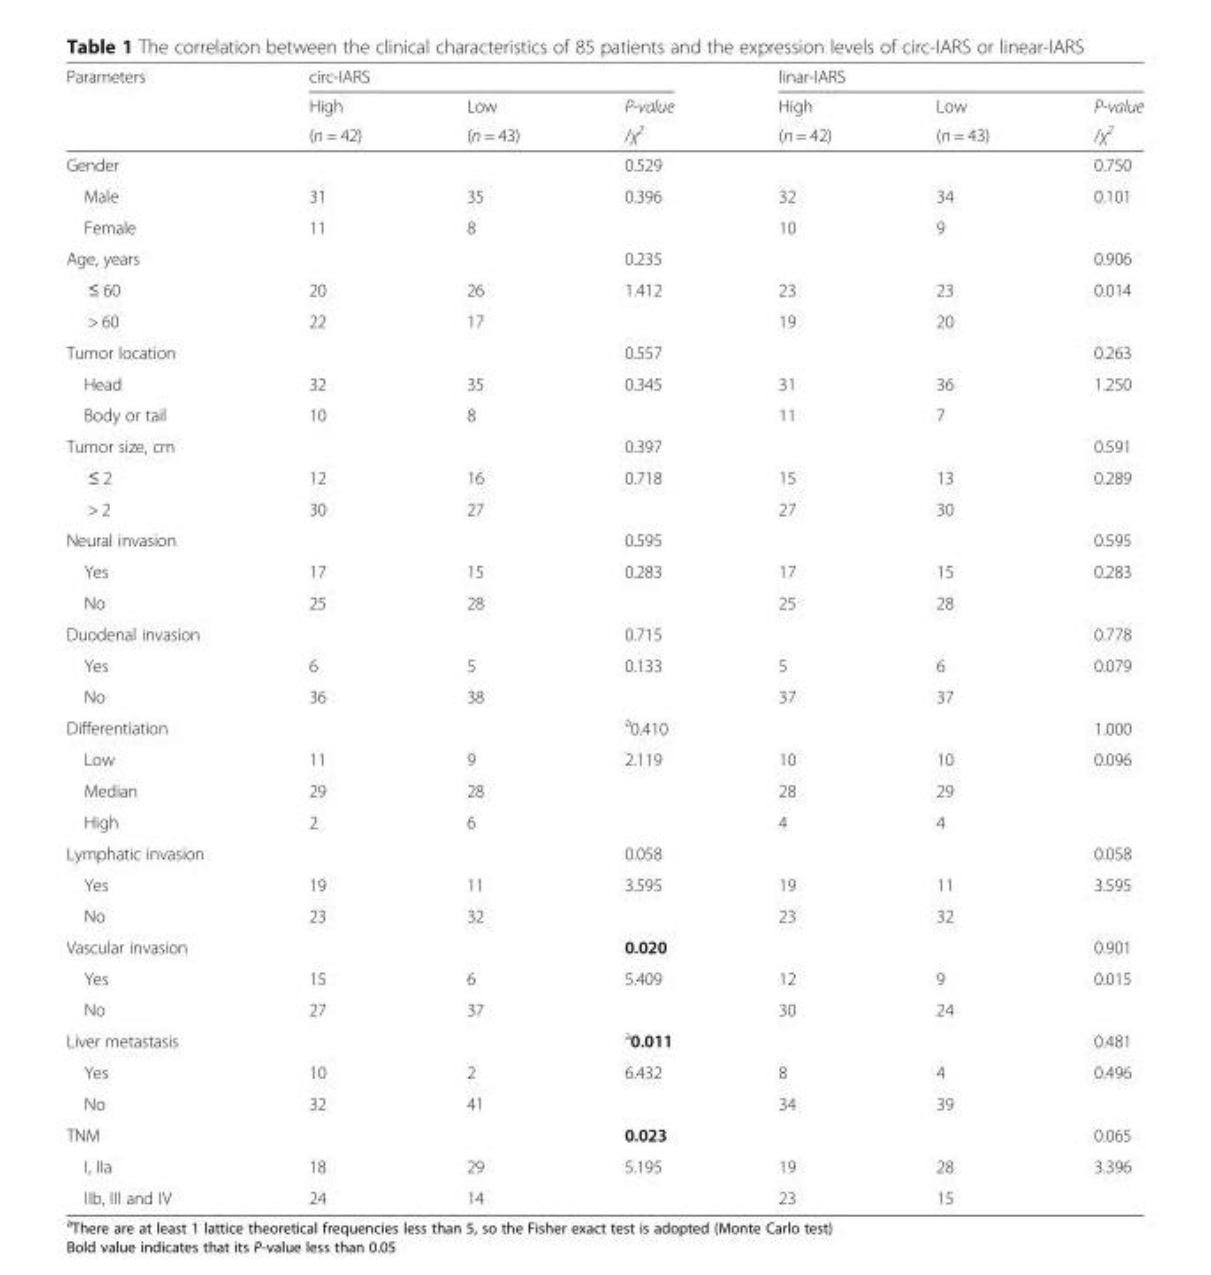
<table><thead><tr><td rowspan="3">Parameters</td><td colspan="3">circ-IARS</td><td colspan="3">linar-IARS</td></tr><tr><td rowspan="2">High (n = 42)</td><td rowspan="2">Low (n = 43)</td><td rowspan="2">P-value /χ<sup>2</sup></td><td rowspan="2">High (n = 42)</td><td rowspan="2">Low (n = 43)</td><td rowspan="2">P-value /χ<sup>2</sup></td></tr><tr></tr></thead><tbody><tr><td>Gender</td><td></td><td></td><td>0.529</td><td></td><td></td><td>0.750</td></tr><tr><td>Male</td><td>31</td><td>35</td><td>0.396</td><td>32</td><td>34</td><td>0.101</td></tr><tr><td>Female</td><td>11</td><td>8</td><td></td><td>10</td><td>9</td><td></td></tr><tr><td>Age, years</td><td></td><td></td><td>0.235</td><td></td><td></td><td>0.906</td></tr><tr><td>≤ 60</td><td>20</td><td>26</td><td>1.412</td><td>23</td><td>23</td><td>0.014</td></tr><tr><td>&gt; 60</td><td>22</td><td>17</td><td></td><td>19</td><td>20</td><td></td></tr><tr><td>Tumor location</td><td></td><td></td><td>0.557</td><td></td><td></td><td>0.263</td></tr><tr><td>Head</td><td>32</td><td>35</td><td>0.345</td><td>31</td><td>36</td><td>1.250</td></tr><tr><td>Body or tail</td><td>10</td><td>8</td><td></td><td>11</td><td>7</td><td></td></tr><tr><td>Tumor size, cm</td><td></td><td></td><td>0.397</td><td></td><td></td><td>0.591</td></tr><tr><td>≤ 2</td><td>12</td><td>16</td><td>0.718</td><td>15</td><td>13</td><td>0.289</td></tr><tr><td>&gt; 2</td><td>30</td><td>27</td><td></td><td>27</td><td>30</td><td></td></tr><tr><td>Neural invasion</td><td></td><td></td><td>0.595</td><td></td><td></td><td>0.595</td></tr><tr><td>Yes</td><td>17</td><td>15</td><td>0.283</td><td>17</td><td>15</td><td>0.283</td></tr><tr><td>No</td><td>25</td><td>28</td><td></td><td>25</td><td>28</td><td></td></tr><tr><td>Duodenal invasion</td><td></td><td></td><td>0.715</td><td></td><td></td><td>0.778</td></tr><tr><td>Yes</td><td>6</td><td>5</td><td>0.133</td><td>5</td><td>6</td><td>0.079</td></tr><tr><td>No</td><td>36</td><td>38</td><td></td><td>37</td><td>37</td><td></td></tr><tr><td>Differentiation</td><td></td><td></td><td><sup>a</sup>0.410</td><td></td><td></td><td>1.000</td></tr><tr><td>Low</td><td>11</td><td>9</td><td>2.119</td><td>10</td><td>10</td><td>0.096</td></tr><tr><td>Median</td><td>29</td><td>28</td><td></td><td>28</td><td>29</td><td></td></tr><tr><td>High</td><td>2</td><td>6</td><td></td><td>4</td><td>4</td><td></td></tr><tr><td>Lymphatic invasion</td><td></td><td></td><td>0.058</td><td></td><td></td><td>0.058</td></tr><tr><td>Yes</td><td>19</td><td>11</td><td>3.595</td><td>19</td><td>11</td><td>3.595</td></tr><tr><td>No</td><td>23</td><td>32</td><td></td><td>23</td><td>32</td><td></td></tr><tr><td>Vascular invasion</td><td></td><td></td><td>0.020</td><td></td><td></td><td>0.901</td></tr><tr><td>Yes</td><td>15</td><td>6</td><td>5.409</td><td>12</td><td>9</td><td>0.015</td></tr><tr><td>No</td><td>27</td><td>37</td><td></td><td>30</td><td>24</td><td></td></tr><tr><td>Liver metastasis</td><td></td><td></td><td><sup>a</sup>0.011</td><td></td><td></td><td>0.481</td></tr><tr><td>Yes</td><td>10</td><td>2</td><td>6.432</td><td>8</td><td>4</td><td>0.496</td></tr><tr><td>No</td><td>32</td><td>41</td><td></td><td>34</td><td>39</td><td></td></tr><tr><td>TNM</td><td></td><td></td><td>0.023</td><td></td><td></td><td>0.065</td></tr><tr><td>I, IIa</td><td>18</td><td>29</td><td>5.195</td><td>19</td><td>28</td><td>3.396</td></tr><tr><td>IIb, III and IV</td><td>24</td><td>14</td><td></td><td>23</td><td>15</td><td></td></tr></tbody></table>